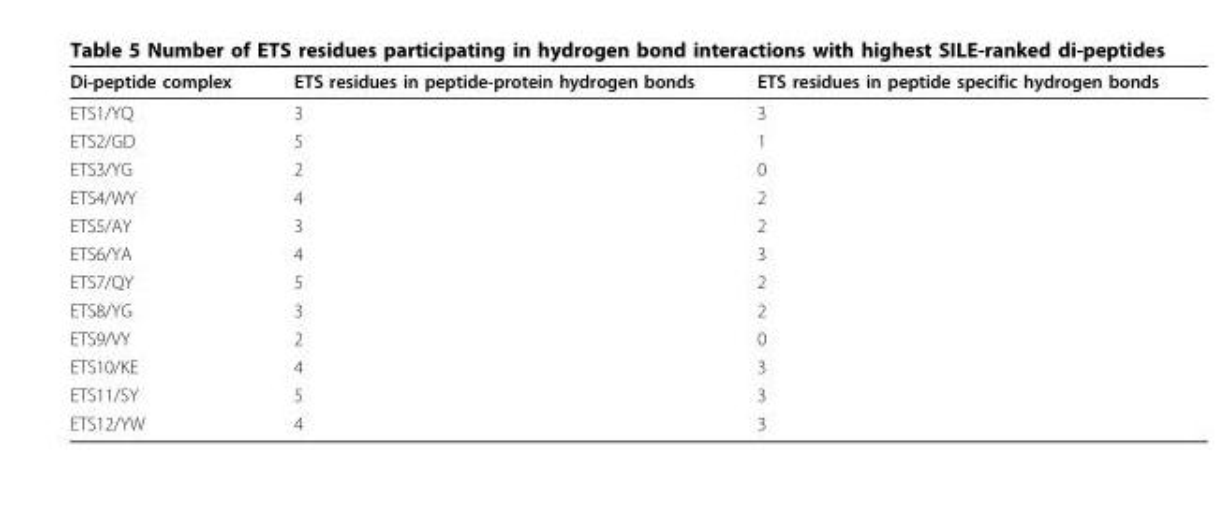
<table><thead><tr><td>Di-peptide complex</td><td>ETS residues in peptide-protein hydrogen bonds</td><td>ETS residues in peptide specific hydrogen bonds</td></tr></thead><tbody><tr><td>ETS1/YQ</td><td>3</td><td>3</td></tr><tr><td>ETS2/GD</td><td>5</td><td>1</td></tr><tr><td>ETS3/YG</td><td>2</td><td>0</td></tr><tr><td>ETS4/WY</td><td>4</td><td>2</td></tr><tr><td>ETS5/AY</td><td>3</td><td>2</td></tr><tr><td>ETS6/YA</td><td>4</td><td>3</td></tr><tr><td>ETS7/QY</td><td>5</td><td>2</td></tr><tr><td>ETS8/YG</td><td>3</td><td>2</td></tr><tr><td>ETS9/VY</td><td>2</td><td>0</td></tr><tr><td>ETS10/KE</td><td>4</td><td>3</td></tr><tr><td>ETS11/SY</td><td>5</td><td>3</td></tr><tr><td>ETS12/YW</td><td>4</td><td>3</td></tr></tbody></table>